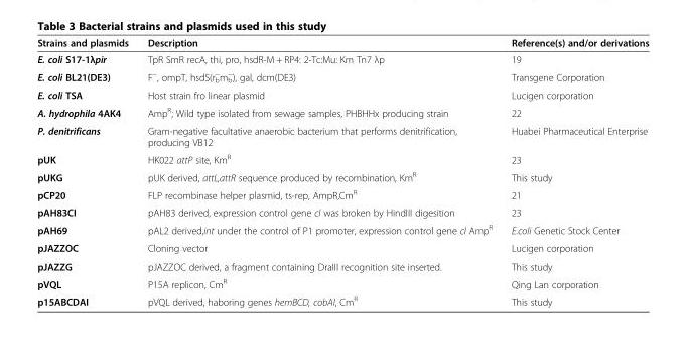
<table><thead><tr><td>Strains and plasmids</td><td>Description</td><td>Reference(s) and/or derivations</td></tr></thead><tbody><tr><td>E. coli S17-1λpir</td><td>TpR SmR recA, thi, pro, hsdR-M + RP4: 2-Tc:Mu: Km Tn7 λp</td><td>19</td></tr><tr><td>E. coli BL21(DE3)</td><td>F<sup>−</sup>, ompT, hsdS(r<sub>b</sub> <sup>−</sup>m<sub>b</sub> <sup>−</sup>), gal, dcm(DE3)</td><td>Transgene Corporation</td></tr><tr><td>E. coli TSA</td><td>Host strain fro linear plasmid</td><td>Lucigen corporation</td></tr><tr><td>A. hydrophila 4AK4</td><td>Amp<sup>R</sup>; Wild type isolated from sewage samples, PHBHHx producing strain</td><td>22</td></tr><tr><td>P. denitrificans</td><td>Gram-negative facultative anaerobic bacterium that performs denitrification, producing VB12</td><td>Huabei Pharmaceutical Enterprise</td></tr><tr><td>pUK</td><td>HK022 attP site, Km<sup>R</sup></td><td>23</td></tr><tr><td>pUKG</td><td>pUK derived, attL,attR sequence produced by recombination, Km<sup>R</sup></td><td>This study</td></tr><tr><td>pCP20</td><td>FLP recombinase helper plasmid, ts-rep, AmpR,Cm<sup>R</sup></td><td>21</td></tr><tr><td>pAH83CI</td><td>pAH83 derived, expression control gene cI was broken by HindIII digesition</td><td>23</td></tr><tr><td>pAH69</td><td>pAL2 derived,int under the control of P1 promoter, expression control gene cI Amp<sup>R</sup></td><td>E.coli Genetic Stock Center</td></tr><tr><td>pJAZZOC</td><td>Cloning vector</td><td>Lucigen corporation</td></tr><tr><td>pJAZZG</td><td>pJAZZOC derived, a fragment containing DraIII recognition site inserted.</td><td>This study</td></tr><tr><td>pVQL</td><td>P15A replicon, Cm<sup>R</sup></td><td>Qing Lan corporation</td></tr><tr><td>p15ABCDAI</td><td>pVQL derived, haboring genes hemBCD, cobAI, Cm<sup>R</sup></td><td>This study</td></tr></tbody></table>